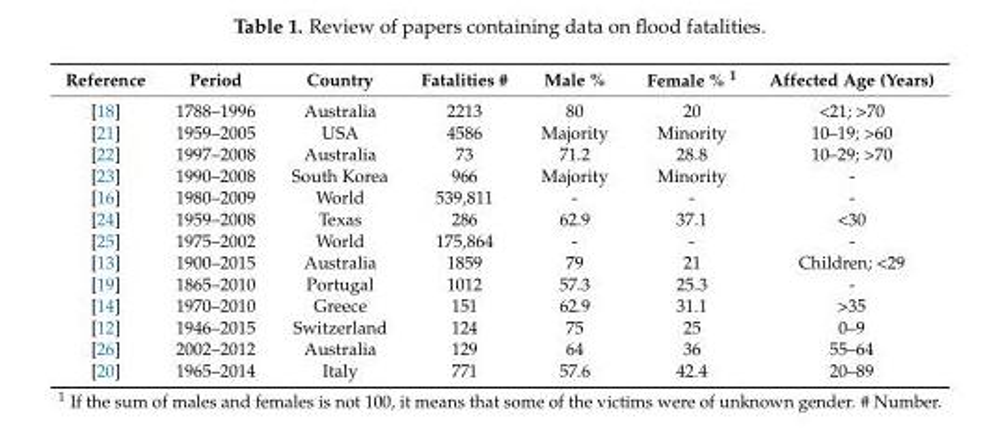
<table><thead><tr><td>Reference</td><td>Period</td><td>Country</td><td>Fatalities #</td><td>Male %</td><td>Female % <sup>1</sup></td><td>Affected Age (Years)</td></tr></thead><tbody><tr><td>[18]</td><td>1788–1996</td><td>Australia</td><td>2213</td><td>80</td><td>20</td><td>&lt;21; &gt;70</td></tr><tr><td>[21]</td><td>1959–2005</td><td>USA</td><td>4586</td><td>Majority</td><td>Minority</td><td>10–19; &gt;60</td></tr><tr><td>[22]</td><td>1997–2008</td><td>Australia</td><td>73</td><td>71.2</td><td>28.8</td><td>10–29; &gt;70</td></tr><tr><td>[23]</td><td>1990–2008</td><td>South Korea</td><td>966</td><td>Majority</td><td>Minority</td><td>-</td></tr><tr><td>[16]</td><td>1980–2009</td><td>World</td><td>539,811</td><td>-</td><td>-</td><td>-</td></tr><tr><td>[24]</td><td>1959–2008</td><td>Texas</td><td>286</td><td>62.9</td><td>37.1</td><td>&lt;30</td></tr><tr><td>[25]</td><td>1975–2002</td><td>World</td><td>175,864</td><td>-</td><td>-</td><td>-</td></tr><tr><td>[13]</td><td>1900–2015</td><td>Australia</td><td>1859</td><td>79</td><td>21</td><td>Children; &lt;29</td></tr><tr><td>[19]</td><td>1865–2010</td><td>Portugal</td><td>1012</td><td>57.3</td><td>25.3</td><td>-</td></tr><tr><td>[14]</td><td>1970–2010</td><td>Greece</td><td>151</td><td>62.9</td><td>31.1</td><td>&gt;35</td></tr><tr><td>[12]</td><td>1946–2015</td><td>Switzerland</td><td>124</td><td>75</td><td>25</td><td>0–9</td></tr><tr><td>[26]</td><td>2002–2012</td><td>Australia</td><td>129</td><td>64</td><td>36</td><td>55–64</td></tr><tr><td>[20]</td><td>1965–2014</td><td>Italy</td><td>771</td><td>57.6</td><td>42.4</td><td>20–89</td></tr></tbody></table>